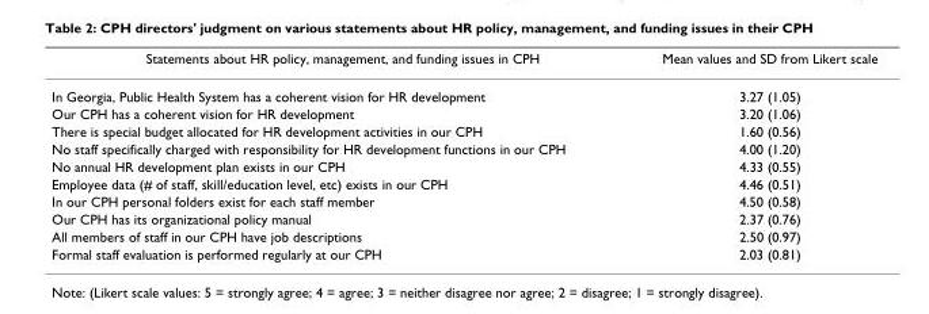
<table><thead><tr><td>Statements about HR policy, management, and funding issues in CPH</td><td>Mean values and SD from Likert scale</td></tr></thead><tbody><tr><td>In Georgia, Public Health System has a coherent vision for HR development</td><td>3.27 (1.05)</td></tr><tr><td>Our CPH has a coherent vision for HR development</td><td>3.20 (1.06)</td></tr><tr><td>There is special budget allocated for HR development activities in our CPH</td><td>1.60 (0.56)</td></tr><tr><td>No staff specifically charged with responsibility for HR development functions in our CPH</td><td>4.00 (1.20)</td></tr><tr><td>No annual HR development plan exists in our CPH</td><td>4.33 (0.55)</td></tr><tr><td>Employee data (# of staff, skill/education level, etc) exists in our CPH</td><td>4.46 (0.51)</td></tr><tr><td>In our CPH personal folders exist for each staff member</td><td>4.50 (0.58)</td></tr><tr><td>Our CPH has its organizational policy manual</td><td>2.37 (0.76)</td></tr><tr><td>All members of staff in our CPH have job descriptions</td><td>2.50 (0.97)</td></tr><tr><td>Formal staff evaluation is performed regularly at our CPH</td><td>2.03 (0.81)</td></tr></tbody></table>